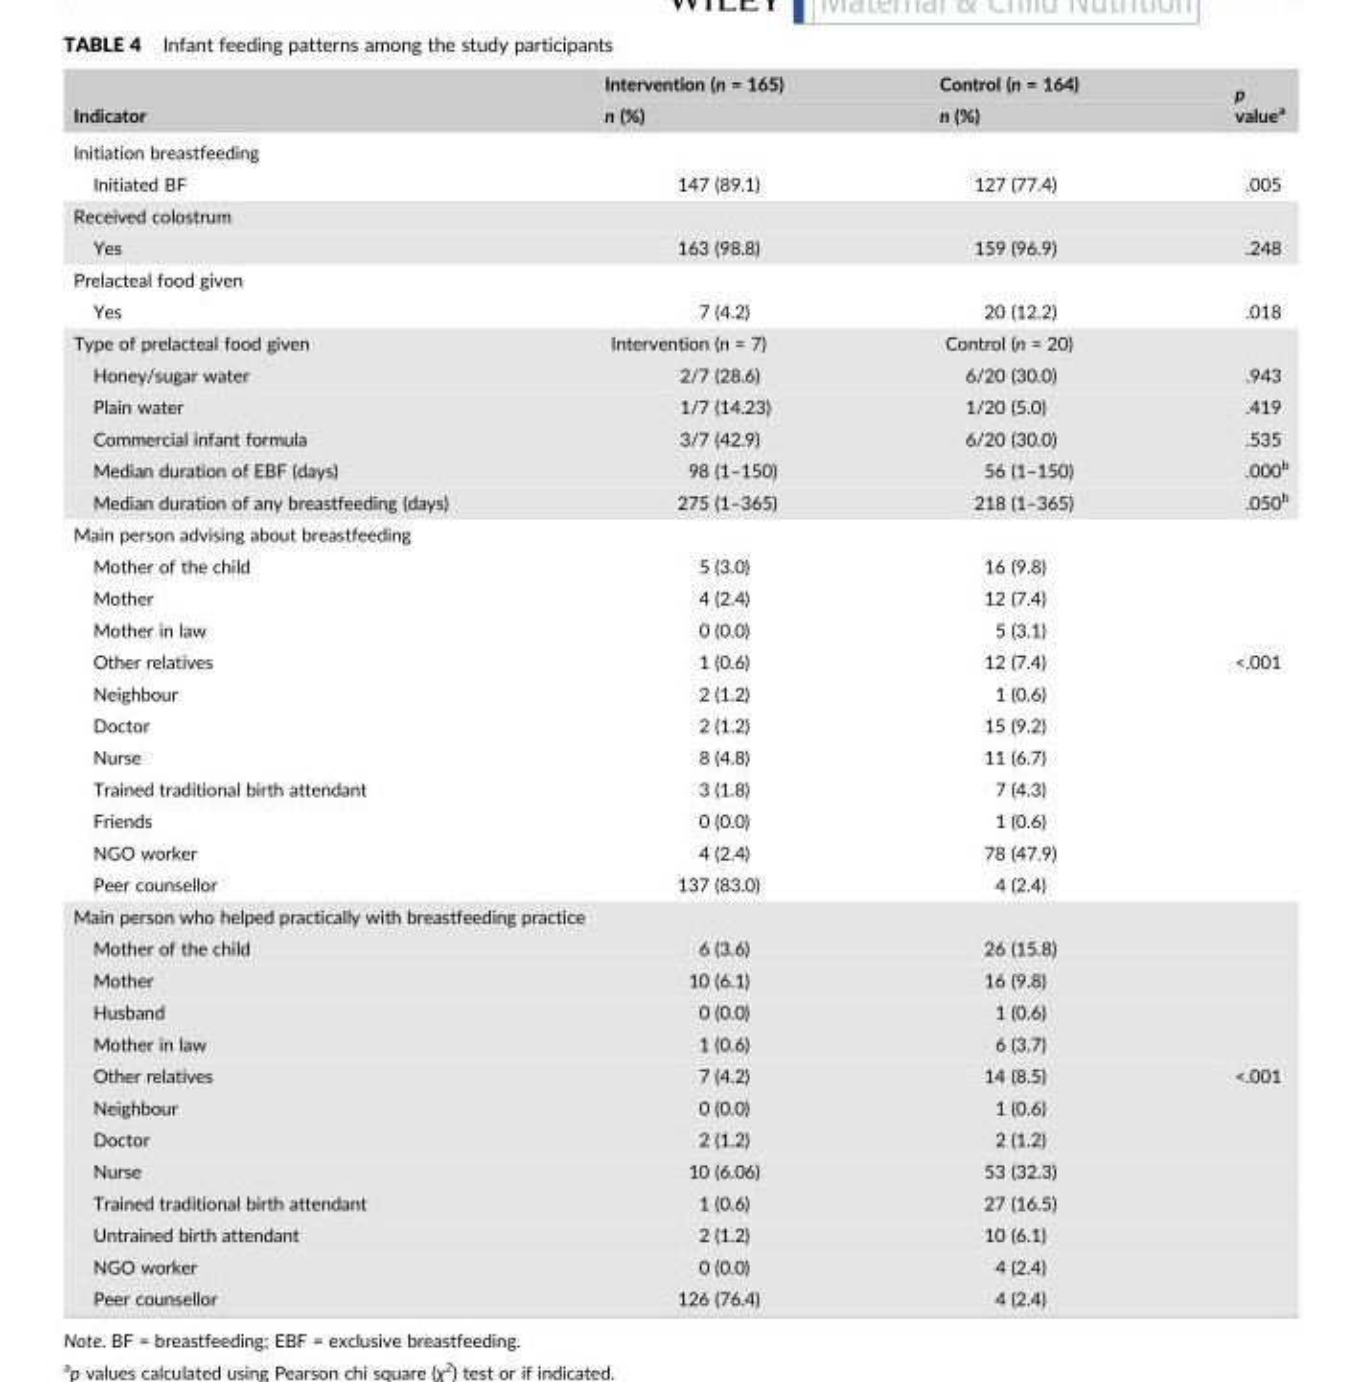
<table><thead><tr><td rowspan="2">Indicator</td><td rowspan="2">Intervention (n = 165) n (%)</td><td rowspan="2">Control (n = 164) n (%)</td><td rowspan="2">p value<sup>a</sup></td></tr><tr></tr></thead><tbody><tr><td colspan="4">Initiation breastfeeding</td></tr><tr><td>Initiated BF</td><td>147 (89.1)</td><td>127 (77.4)</td><td>.005</td></tr><tr><td colspan="4">Received colostrum</td></tr><tr><td>Yes</td><td>163 (98.8)</td><td>159 (96.9)</td><td>.248</td></tr><tr><td colspan="4">Prelacteal food given</td></tr><tr><td>Yes</td><td>7 (4.2)</td><td>20 (12.2)</td><td>.018</td></tr><tr><td>Type of prelacteal food given</td><td>Intervention (n = 7)</td><td>Control (n = 20)</td><td></td></tr><tr><td>Honey/sugar water</td><td>2/7 (28.6)</td><td>6/20 (30.0)</td><td>.943</td></tr><tr><td>Plain water</td><td>1/7 (14.23)</td><td>1/20 (5.0)</td><td>.419</td></tr><tr><td>Commercial infant formula</td><td>3/7 (42.9)</td><td>6/20 (30.0)</td><td>.535</td></tr><tr><td>Median duration of EBF (days)</td><td>98 (1–150)</td><td>56 (1–150)</td><td>.000<sup>b</sup></td></tr><tr><td>Median duration of any breastfeeding (days)</td><td>275 (1–365)</td><td>218 (1–365)</td><td>.050<sup>b</sup></td></tr><tr><td colspan="4">Main person advising about breastfeeding</td></tr><tr><td>Mother of the child</td><td>5 (3.0)</td><td>16 (9.8)</td><td></td></tr><tr><td>Mother</td><td>4 (2.4)</td><td>12 (7.4)</td><td></td></tr><tr><td>Mother in law</td><td>0 (0.0)</td><td>5 (3.1)</td><td></td></tr><tr><td>Other relatives</td><td>1 (0.6)</td><td>12 (7.4)</td><td>&lt;.001</td></tr><tr><td>Neighbour</td><td>2 (1.2)</td><td>1 (0.6)</td><td></td></tr><tr><td>Doctor</td><td>2 (1.2)</td><td>15 (9.2)</td><td></td></tr><tr><td>Nurse</td><td>8 (4.8)</td><td>11 (6.7)</td><td></td></tr><tr><td>Trained traditional birth attendant</td><td>3 (1.8)</td><td>7 (4.3)</td><td></td></tr><tr><td>Friends</td><td>0 (0.0)</td><td>1 (0.6)</td><td></td></tr><tr><td>NGO worker</td><td>4 (2.4)</td><td>78 (47.9)</td><td></td></tr><tr><td>Peer counsellor</td><td>137 (83.0)</td><td>4 (2.4)</td><td></td></tr><tr><td colspan="4">Main person who helped practically with breastfeeding practice</td></tr><tr><td>Mother of the child</td><td>6 (3.6)</td><td>26 (15.8)</td><td></td></tr><tr><td>Mother</td><td>10 (6.1)</td><td>16 (9.8)</td><td></td></tr><tr><td>Husband</td><td>0 (0.0)</td><td>1 (0.6)</td><td></td></tr><tr><td>Mother in law</td><td>1 (0.6)</td><td>6 (3.7)</td><td></td></tr><tr><td>Other relatives</td><td>7 (4.2)</td><td>14 (8.5)</td><td>&lt;.001</td></tr><tr><td>Neighbour</td><td>0 (0.0)</td><td>1 (0.6)</td><td></td></tr><tr><td>Doctor</td><td>2 (1.2)</td><td>2 (1.2)</td><td></td></tr><tr><td>Nurse</td><td>10 (6.06)</td><td>53 (32.3)</td><td></td></tr><tr><td>Trained traditional birth attendant</td><td>1 (0.6)</td><td>27 (16.5)</td><td></td></tr><tr><td>Untrained birth attendant</td><td>2 (1.2)</td><td>10 (6.1)</td><td></td></tr><tr><td>NGO worker</td><td>0 (0.0)</td><td>4 (2.4)</td><td></td></tr><tr><td>Peer counsellor</td><td>126 (76.4)</td><td>4 (2.4)</td><td></td></tr></tbody></table>